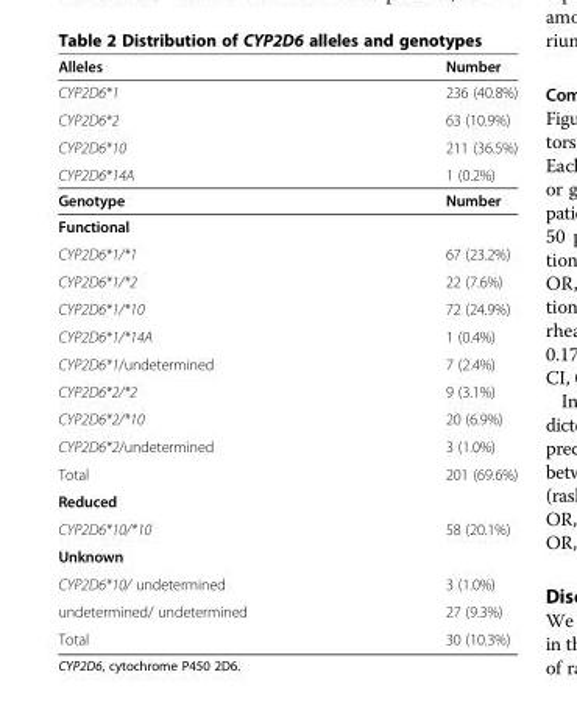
<table><thead><tr><td>Alleles</td><td>Number</td></tr></thead><tbody><tr><td>CYP2D6*1</td><td>236 (40.8%)</td></tr><tr><td>CYP2D6*2</td><td>63 (10.9%)</td></tr><tr><td>CYP2D6*10</td><td>211 (36.5%)</td></tr><tr><td>CYP2D6*14A</td><td>1 (0.2%)</td></tr><tr><td>Genotype</td><td>Number</td></tr><tr><td colspan="2">Functional</td></tr><tr><td>CYP2D6*1/*1</td><td>67 (23.2%)</td></tr><tr><td>CYP2D6*1/*2</td><td>22 (7.6%)</td></tr><tr><td>CYP2D6*1/*10</td><td>72 (24.9%)</td></tr><tr><td>CYP2D6*1/*14A</td><td>1 (0.4%)</td></tr><tr><td>CYP2D6*1/undetermined</td><td>7 (2.4%)</td></tr><tr><td>CYP2D6*2/*2</td><td>9 (3.1%)</td></tr><tr><td>CYP2D6*2/*10</td><td>20 (6.9%)</td></tr><tr><td>CYP2D6*2/undetermined</td><td>3 (1.0%)</td></tr><tr><td>Total</td><td>201 (69.6%)</td></tr><tr><td colspan="2">Reduced</td></tr><tr><td>CYP2D6*10/*10</td><td>58 (20.1%)</td></tr><tr><td colspan="2">Unknown</td></tr><tr><td>CYP2D6*10/ undetermined</td><td>3 (1.0%)</td></tr><tr><td>undetermined/ undetermined</td><td>27 (9.3%)</td></tr><tr><td>Total</td><td>30 (10.3%)</td></tr></tbody></table>